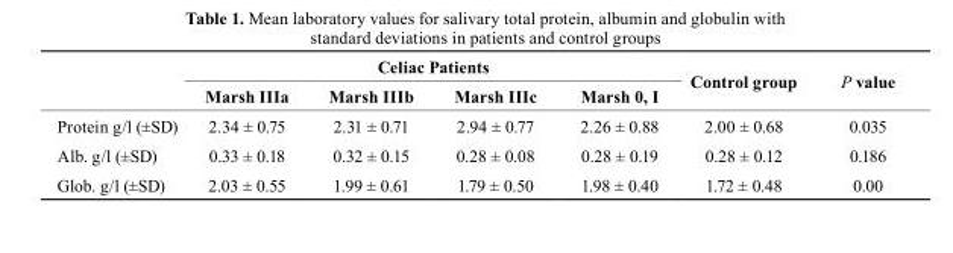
<table><thead><tr><td rowspan="2"></td><td colspan="4">celiac Patients</td><td rowspan="2">control group</td><td rowspan="2">P value</td></tr><tr><td>Marsh IIIa</td><td>Marsh IIIb</td><td>Marsh IIIc</td><td>Marsh 0, I</td></tr></thead><tbody><tr><td>Protein g/l (±SD)</td><td>2.34 ± 0.75</td><td>2.31 ± 0.71</td><td>2.94 ± 0.77</td><td>2.26 ± 0.88</td><td>2.00 ± 0.68</td><td>0.035</td></tr><tr><td>Alb. g/l (±SD)</td><td>0.33 ± 0.18</td><td>0.32 ± 0.15</td><td>0.28 ± 0.08</td><td>0.28 ± 0.19</td><td>0.28 ± 0.12</td><td>0.186</td></tr><tr><td>Glob. g/l (±SD)</td><td>2.03 ± 0.55</td><td>1.99 ± 0.61</td><td>1.79 ± 0.50</td><td>1.98 ± 0.40</td><td>1.72 ± 0.48</td><td>0.00</td></tr></tbody></table>